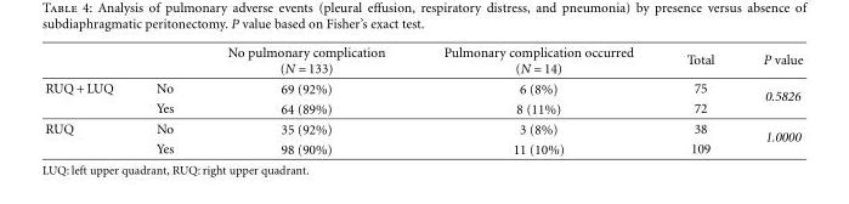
<table><thead><tr><td></td><td></td><td>No pulmonary complication (N = 133)</td><td>Pulmonary complication occurred (N = 14)</td><td>Total</td><td>P value</td></tr></thead><tbody><tr><td rowspan="2">RUQ + LUQ</td><td>No</td><td>69 (92%)</td><td>6 (8%)</td><td>75</td><td rowspan="2">0.5826</td></tr><tr><td>Yes</td><td>64 (89%)</td><td>8 (11%)</td><td>72</td></tr><tr><td rowspan="2">RUQ</td><td>No</td><td>35 (92%)</td><td>3 (8%)</td><td>38</td><td rowspan="2">1.0000</td></tr><tr><td>Yes</td><td>98 (90%)</td><td>11 (10%)</td><td>109</td></tr></tbody></table>